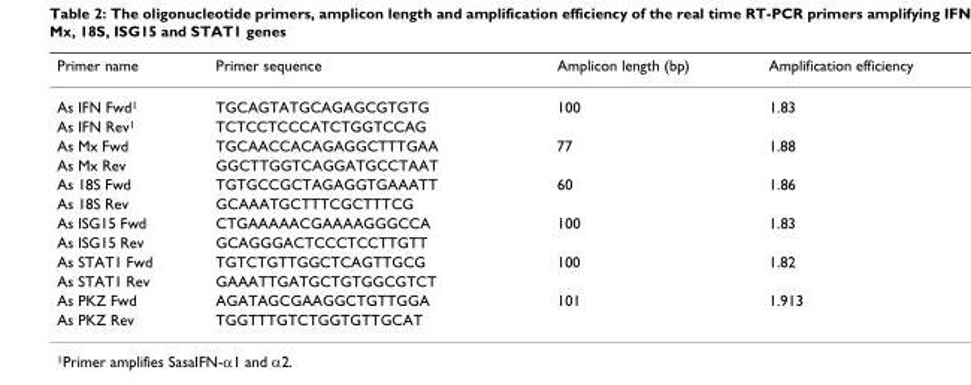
<table><thead><tr><td>Primer name</td><td>Primer sequence</td><td>Amplicon length (bp)</td><td>Amplification efficiency</td></tr></thead><tbody><tr><td>As IFN Fwd<sup>1</sup></td><td>TGCAGTATGCAGAGCGTGTG</td><td>100</td><td>1.83</td></tr><tr><td>As IFN Rev<sup>1</sup></td><td>TCTCCTCCCATCTGGTCCAG</td><td></td><td></td></tr><tr><td>As Mx Fwd</td><td>TGCAACCACAGAGGCTTTGAA</td><td>77</td><td>1.88</td></tr><tr><td>As Mx Rev</td><td>GGCTTGGTCAGGATGCCTAAT</td><td></td><td></td></tr><tr><td>As 18S Fwd</td><td>TGTGCCGCTAGAGGTGAAATT</td><td>60</td><td>1.86</td></tr><tr><td>As 18S Rev</td><td>GCAAATGCTTTCGCTTTCG</td><td></td><td></td></tr><tr><td>As ISG15 Fwd</td><td>CTGAAAAACGAAAAGGGCCA</td><td>100</td><td>1.83</td></tr><tr><td>As ISG15 Rev</td><td>GCAGGGACTCCCTCCTTGTT</td><td></td><td></td></tr><tr><td>As STAT1 Fwd</td><td>TGTCTGTTGGCTCAGTTGCG</td><td>100</td><td>1.82</td></tr><tr><td>As STAT1 Rev</td><td>GAAATTGATGCTGTGGCGTCT</td><td></td><td></td></tr><tr><td>As PKZ Fwd</td><td>AGATAGCGAAGGCTGTTGGA</td><td>101</td><td>1.913</td></tr><tr><td>As PKZ Rev</td><td>TGGTTTGTCTGGTGTTGCAT</td><td></td><td></td></tr></tbody></table>